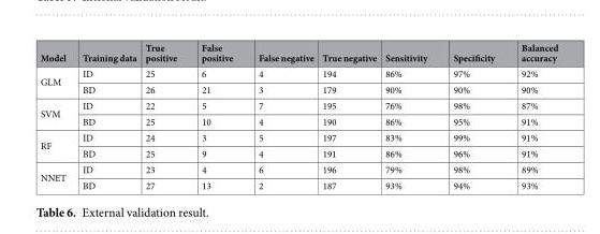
<table><thead><tr><td>Model</td><td>Training data</td><td>True positive</td><td>False positive</td><td>False negative</td><td>True negative</td><td>Sensitivity</td><td>Specificity</td><td>Balanced accuracy</td></tr></thead><tbody><tr><td rowspan="2">GLM</td><td>ID</td><td>25</td><td>6</td><td>4</td><td>194</td><td>86%</td><td>97%</td><td>92%</td></tr><tr><td>BD</td><td>26</td><td>21</td><td>3</td><td>179</td><td>90%</td><td>90%</td><td>90%</td></tr><tr><td rowspan="2">SVM</td><td>ID</td><td>22</td><td>5</td><td>7</td><td>195</td><td>76%</td><td>98%</td><td>87%</td></tr><tr><td>BD</td><td>25</td><td>10</td><td>4</td><td>190</td><td>86%</td><td>95%</td><td>91%</td></tr><tr><td rowspan="2">RF</td><td>ID</td><td>24</td><td>3</td><td>5</td><td>197</td><td>83%</td><td>99%</td><td>91%</td></tr><tr><td>BD</td><td>25</td><td>9</td><td>4</td><td>191</td><td>86%</td><td>96%</td><td>91%</td></tr><tr><td rowspan="2">NNET</td><td>ID</td><td>23</td><td>4</td><td>6</td><td>196</td><td>79%</td><td>98%</td><td>89%</td></tr><tr><td>BD</td><td>27</td><td>13</td><td>2</td><td>187</td><td>93%</td><td>94%</td><td>93%</td></tr></tbody></table>